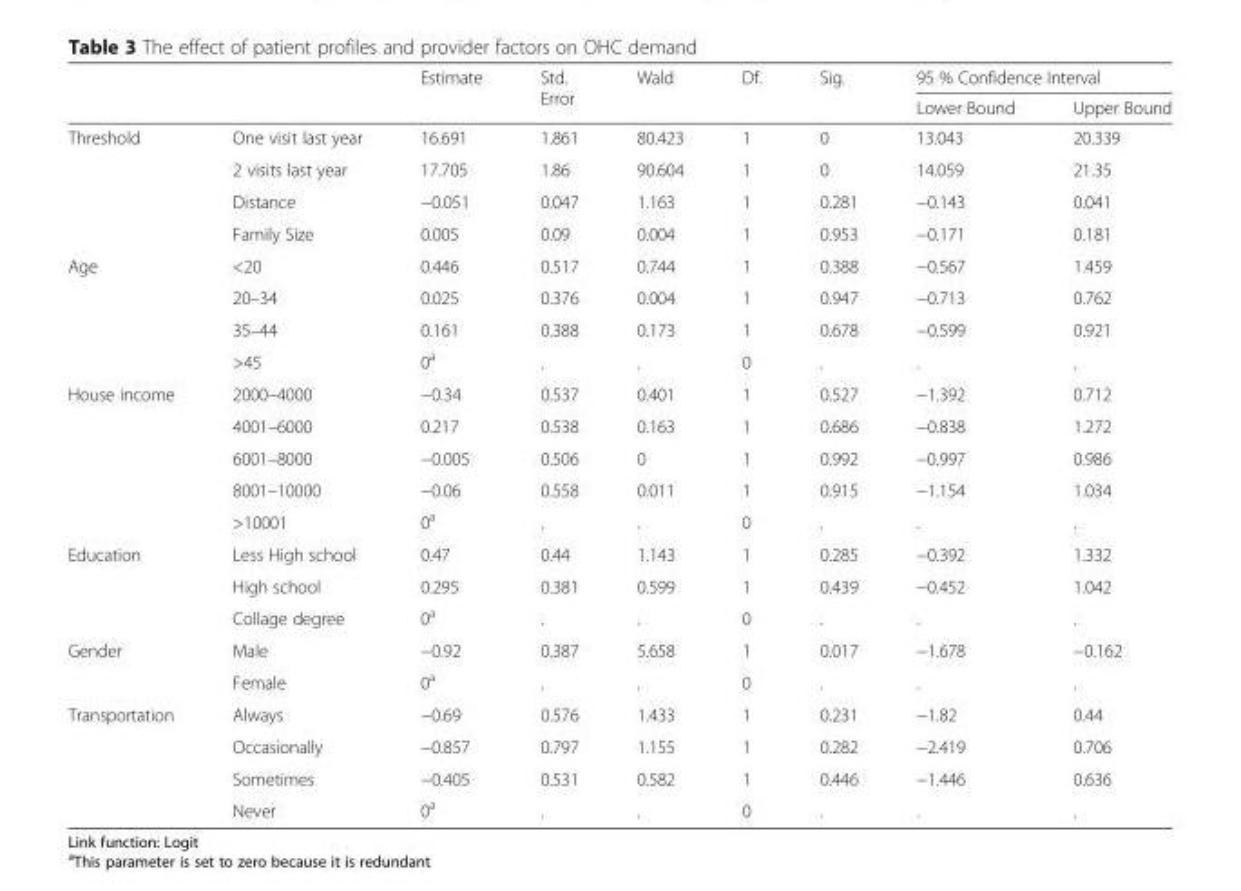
<table><thead><tr><td rowspan="2"></td><td rowspan="2"></td><td rowspan="2">Estimate</td><td rowspan="2">Std. Error</td><td rowspan="2">Wald</td><td rowspan="2">Df.</td><td rowspan="2">Sig.</td><td colspan="2">95 % Confidence Interval</td></tr><tr><td>Lower Bound</td><td>Upper Bound</td></tr></thead><tbody><tr><td rowspan="4">Threshold</td><td>One visit last year</td><td>16.691</td><td>1.861</td><td>80.423</td><td>1</td><td>0</td><td>13.043</td><td>20.339</td></tr><tr><td>2 visits last year</td><td>17.705</td><td>1.86</td><td>90.604</td><td>1</td><td>0</td><td>14.059</td><td>21.35</td></tr><tr><td>Distance</td><td>−0.051</td><td>0.047</td><td>1.163</td><td>1</td><td>0.281</td><td>−0.143</td><td>0.041</td></tr><tr><td>Family Size</td><td>0.005</td><td>0.09</td><td>0.004</td><td>1</td><td>0.953</td><td>−0.171</td><td>0.181</td></tr><tr><td rowspan="4">Age</td><td>&lt;20</td><td>0.446</td><td>0.517</td><td>0.744</td><td>1</td><td>0.388</td><td>−0.567</td><td>1.459</td></tr><tr><td>20–34</td><td>0.025</td><td>0.376</td><td>0.004</td><td>1</td><td>0.947</td><td>−0.713</td><td>0.762</td></tr><tr><td>35–44</td><td>0.161</td><td>0.388</td><td>0.173</td><td>1</td><td>0.678</td><td>−0.599</td><td>0.921</td></tr><tr><td>&gt;45</td><td>0<sup>a</sup></td><td>.</td><td>.</td><td>0</td><td>.</td><td>.</td><td>.</td></tr><tr><td rowspan="5">House income</td><td>2000–4000</td><td>−0.34</td><td>0.537</td><td>0.401</td><td>1</td><td>0.527</td><td>−1.392</td><td>0.712</td></tr><tr><td>4001–6000</td><td>0.217</td><td>0.538</td><td>0.163</td><td>1</td><td>0.686</td><td>−0.838</td><td>1.272</td></tr><tr><td>6001–8000</td><td>−0.005</td><td>0.506</td><td>0</td><td>1</td><td>0.992</td><td>−0.997</td><td>0.986</td></tr><tr><td>8001–10000</td><td>−0.06</td><td>0.558</td><td>0.011</td><td>1</td><td>0.915</td><td>−1.154</td><td>1.034</td></tr><tr><td>&gt;10001</td><td>0<sup>a</sup></td><td>.</td><td>.</td><td>0</td><td>.</td><td>.</td><td>.</td></tr><tr><td rowspan="3">Education</td><td>Less High school</td><td>0.47</td><td>0.44</td><td>1.143</td><td>1</td><td>0.285</td><td>−0.392</td><td>1.332</td></tr><tr><td>High school</td><td>0.295</td><td>0.381</td><td>0.599</td><td>1</td><td>0.439</td><td>−0.452</td><td>1.042</td></tr><tr><td>Collage degree</td><td>0<sup>a</sup></td><td>.</td><td>.</td><td>0</td><td>.</td><td>.</td><td>.</td></tr><tr><td rowspan="2">Gender</td><td>Male</td><td>−0.92</td><td>0.387</td><td>5.658</td><td>1</td><td>0.017</td><td>−1.678</td><td>−0.162</td></tr><tr><td>Female</td><td>0<sup>a</sup></td><td>.</td><td>.</td><td>0</td><td>.</td><td>.</td><td>.</td></tr><tr><td rowspan="4">Transportation</td><td>Always</td><td>−0.69</td><td>0.576</td><td>1.433</td><td>1</td><td>0.231</td><td>−1.82</td><td>0.44</td></tr><tr><td>Occasionally</td><td>−0.857</td><td>0.797</td><td>1.155</td><td>1</td><td>0.282</td><td>−2.419</td><td>0.706</td></tr><tr><td>Sometimes</td><td>−0.405</td><td>0.531</td><td>0.582</td><td>1</td><td>0.446</td><td>−1.446</td><td>0.636</td></tr><tr><td>Never</td><td>0<sup>a</sup></td><td>.</td><td>.</td><td>0</td><td>.</td><td>.</td><td>.</td></tr></tbody></table>